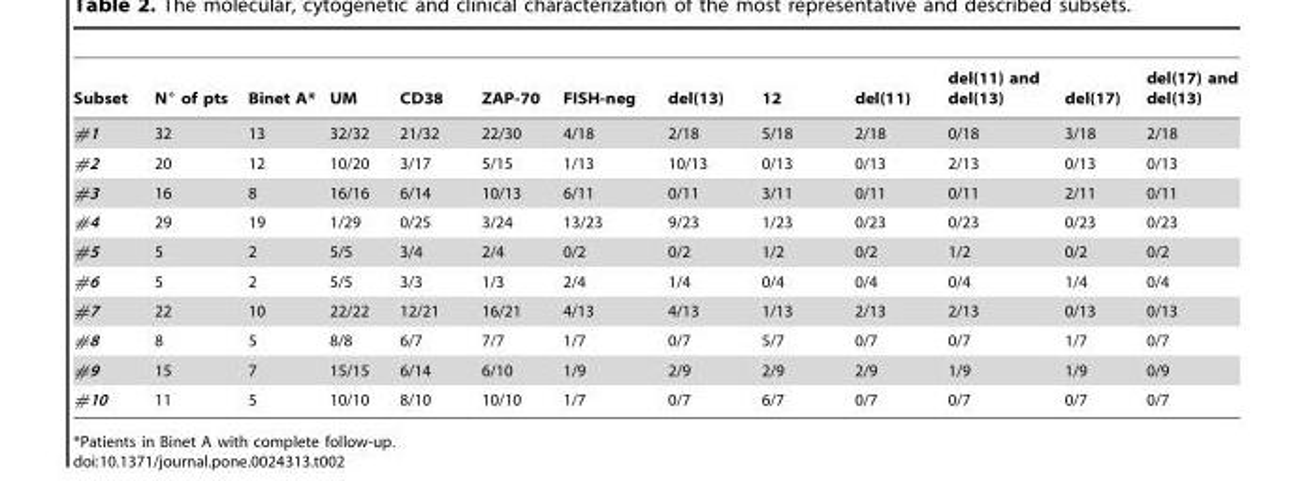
<table><thead><tr><td>Subset</td><td>N° of pts</td><td>Binet A*</td><td>UM</td><td>CD38</td><td>ZAP-70</td><td>FISH-neg</td><td>del(13)</td><td>12</td><td>del(11)</td><td>del(11) and del(13)</td><td>del(17)</td><td>del(17) and del(13)</td></tr></thead><tbody><tr><td>#1</td><td>32</td><td>13</td><td>32/32</td><td>21/32</td><td>22/30</td><td>4/18</td><td>2/18</td><td>5/18</td><td>2/18</td><td>0/18</td><td>3/18</td><td>2/18</td></tr><tr><td>#2</td><td>20</td><td>12</td><td>10/20</td><td>3/17</td><td>5/15</td><td>1/13</td><td>10/13</td><td>0/13</td><td>0/13</td><td>2/13</td><td>0/13</td><td>0/13</td></tr><tr><td>#3</td><td>16</td><td>8</td><td>16/16</td><td>6/14</td><td>10/13</td><td>6/11</td><td>0/11</td><td>3/11</td><td>0/11</td><td>0/11</td><td>2/11</td><td>0/11</td></tr><tr><td>#4</td><td>29</td><td>19</td><td>1/29</td><td>0/25</td><td>3/24</td><td>13/23</td><td>9/23</td><td>1/23</td><td>0/23</td><td>0/23</td><td>0/23</td><td>0/23</td></tr><tr><td>#5</td><td>5</td><td>2</td><td>5/5</td><td>3/4</td><td>2/4</td><td>0/2</td><td>0/2</td><td>1/2</td><td>0/2</td><td>1/2</td><td>0/2</td><td>0/2</td></tr><tr><td>#6</td><td>5</td><td>2</td><td>5/5</td><td>3/3</td><td>1/3</td><td>2/4</td><td>1/4</td><td>0/4</td><td>0/4</td><td>0/4</td><td>1/4</td><td>0/4</td></tr><tr><td>#7</td><td>22</td><td>10</td><td>22/22</td><td>12/21</td><td>16/21</td><td>4/13</td><td>4/13</td><td>1/13</td><td>2/13</td><td>2/13</td><td>0/13</td><td>0/13</td></tr><tr><td>#8</td><td>8</td><td>5</td><td>8/8</td><td>6/7</td><td>7/7</td><td>1/7</td><td>0/7</td><td>5/7</td><td>0/7</td><td>0/7</td><td>1/7</td><td>0/7</td></tr><tr><td>#9</td><td>15</td><td>7</td><td>15/15</td><td>6/14</td><td>6/10</td><td>1/9</td><td>2/9</td><td>2/9</td><td>2/9</td><td>1/9</td><td>1/9</td><td>0/9</td></tr><tr><td>#10</td><td>11</td><td>5</td><td>10/10</td><td>8/10</td><td>10/10</td><td>1/7</td><td>0/7</td><td>6/7</td><td>0/7</td><td>0/7</td><td>0/7</td><td>0/7</td></tr></tbody></table>